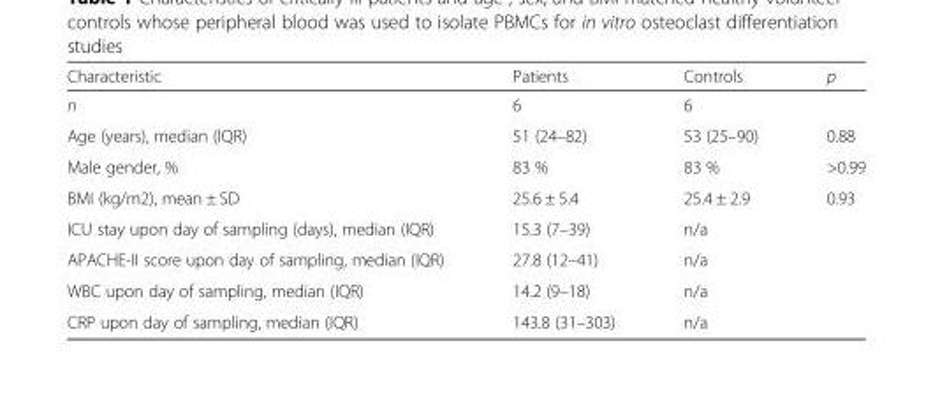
<table><thead><tr><td>Characteristic</td><td>Patients</td><td>Controls</td><td>p</td></tr></thead><tbody><tr><td>n</td><td>6</td><td>6</td><td></td></tr><tr><td>Age (years), median (IQR)</td><td>51 (24–82)</td><td>53 (25–90)</td><td>0.88</td></tr><tr><td>Male gender, %</td><td>83 %</td><td>83 %</td><td>&gt;0.99</td></tr><tr><td>BMI (kg/m2), mean ± SD</td><td>25.6 ± 5.4</td><td>25.4 ± 2.9</td><td>0.93</td></tr><tr><td>ICU stay upon day of sampling (days), median (IQR)</td><td>15.3 (7–39)</td><td>n/a</td><td></td></tr><tr><td>APACHE-II score upon day of sampling, median (IQR)</td><td>27.8 (12–41)</td><td>n/a</td><td></td></tr><tr><td>WBC upon day of sampling, median (IQR)</td><td>14.2 (9–18)</td><td>n/a</td><td></td></tr><tr><td>CRP upon day of sampling, median (IQR)</td><td>143.8 (31–303)</td><td>n/a</td><td></td></tr></tbody></table>